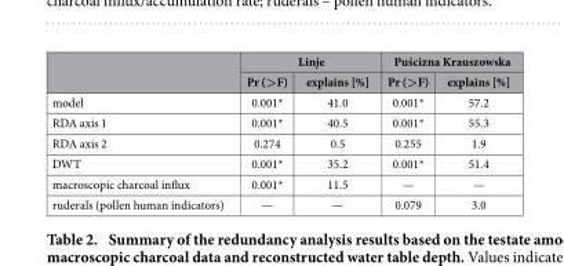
<table><thead><tr><td rowspan="2"></td><td colspan="2">Linje</td><td colspan="2">Puścizna Krauszowska</td></tr><tr><td>Pr (&gt;F)</td><td>explains [%]</td><td>Pr (&gt;F)</td><td>explains [%]</td></tr></thead><tbody><tr><td>model</td><td>0.001*</td><td>41.0</td><td>0.001*</td><td>57.2</td></tr><tr><td>RDA axis 1</td><td>0.001*</td><td>40.5</td><td>0.001*</td><td>55.3</td></tr><tr><td>RDA axis 2</td><td>0.274</td><td>0.5</td><td>0.255</td><td>1.9</td></tr><tr><td>DWT</td><td>0.001*</td><td>35.2</td><td>0.001*</td><td>51.4</td></tr><tr><td>macroscopic charcoal influx</td><td>0.001*</td><td>11.5</td><td>—</td><td>—</td></tr><tr><td>ruderals (pollen human indicators)</td><td>—</td><td>—</td><td>0.079</td><td>3.0</td></tr></tbody></table>